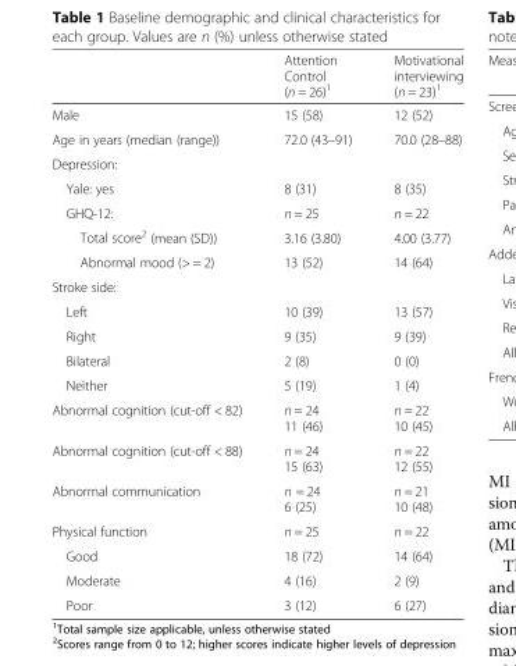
<table><thead><tr><td></td><td>Attention Control (n = 26)<sup>1</sup></td><td>Motivational interviewing (n = 23)<sup>1</sup></td></tr></thead><tbody><tr><td>Male</td><td>15 (58)</td><td>12 (52)</td></tr><tr><td>Age in years (median (range))</td><td>72.0 (43–91)</td><td>70.0 (28–88)</td></tr><tr><td colspan="3">Depression:</td></tr><tr><td>Yale: yes</td><td>8 (31)</td><td>8 (35)</td></tr><tr><td>GHQ-12:</td><td>n = 25</td><td>n = 22</td></tr><tr><td>Total score<sup>2</sup> (mean (SD))</td><td>3.16 (3.80)</td><td>4.00 (3.77)</td></tr><tr><td>Abnormal mood (&gt; = 2)</td><td>13 (52)</td><td>14 (64)</td></tr><tr><td colspan="3">Stroke side:</td></tr><tr><td>Left</td><td>10 (39)</td><td>13 (57)</td></tr><tr><td>Right</td><td>9 (35)</td><td>9 (39)</td></tr><tr><td>Bilateral</td><td>2 (8)</td><td>0 (0)</td></tr><tr><td>Neither</td><td>5 (19)</td><td>1 (4)</td></tr><tr><td>Abnormal cognition (cut-off &lt; 82)</td><td>n = 24 11 (46)</td><td>n = 22 10 (45)</td></tr><tr><td>Abnormal cognition (cut-off &lt; 88)</td><td>n = 24 15 (63)</td><td>n = 22 12 (55)</td></tr><tr><td>Abnormal communication</td><td>n = 24 6 (25)</td><td>n = 21 10 (48)</td></tr><tr><td>Physical function</td><td>n = 25</td><td>n = 22</td></tr><tr><td>Good</td><td>18 (72)</td><td>14 (64)</td></tr><tr><td>Moderate</td><td>4 (16)</td><td>2 (9)</td></tr><tr><td>Poor</td><td>3 (12)</td><td>6 (27)</td></tr></tbody></table>